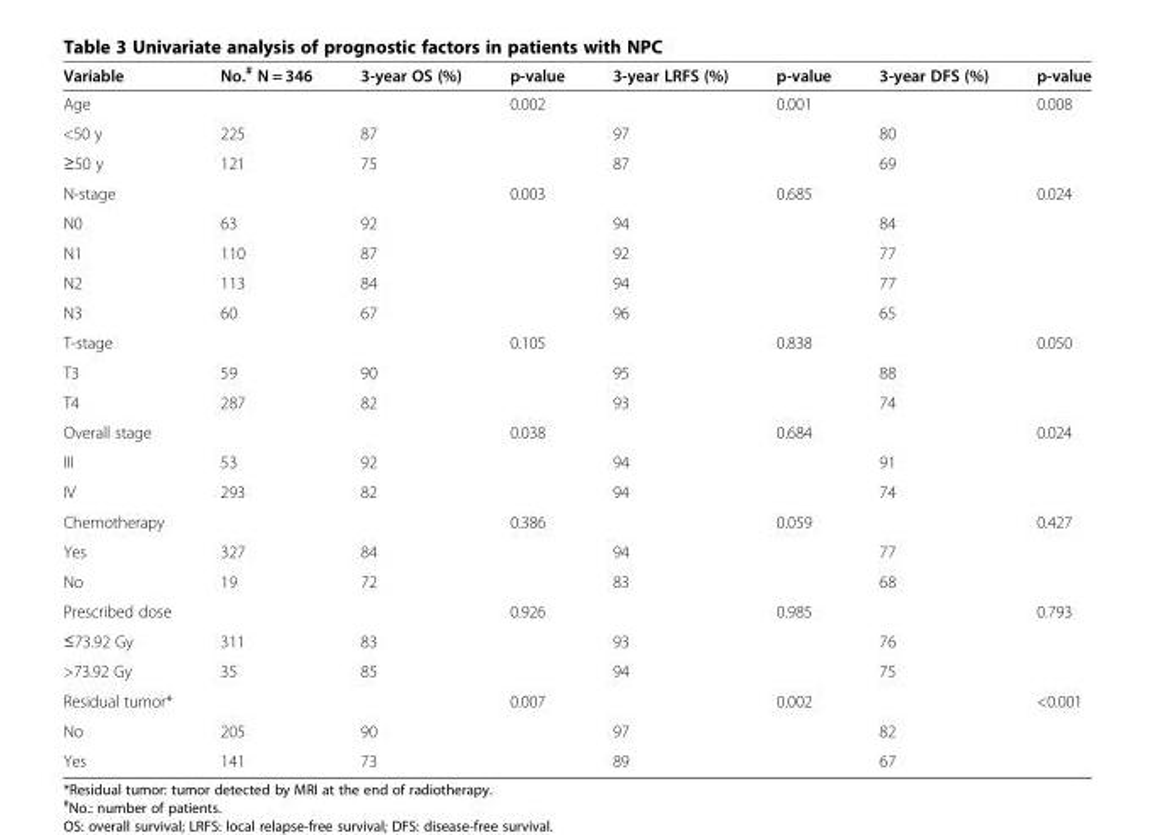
<table><thead><tr><td>Variable</td><td>No.<sup>#</sup> N = 346</td><td>3-year OS (%)</td><td>p-value</td><td>3-year LRFS (%)</td><td>p-value</td><td>3-year DFS (%)</td><td>p-value</td></tr></thead><tbody><tr><td>Age</td><td></td><td></td><td>0.002</td><td></td><td>0.001</td><td></td><td>0.008</td></tr><tr><td>&lt;50 y</td><td>225</td><td>87</td><td></td><td>97</td><td></td><td>80</td><td></td></tr><tr><td>≥50 y</td><td>121</td><td>75</td><td></td><td>87</td><td></td><td>69</td><td></td></tr><tr><td>N-stage</td><td></td><td></td><td>0.003</td><td></td><td>0.685</td><td></td><td>0.024</td></tr><tr><td>N0</td><td>63</td><td>92</td><td></td><td>94</td><td></td><td>84</td><td></td></tr><tr><td>N1</td><td>110</td><td>87</td><td></td><td>92</td><td></td><td>77</td><td></td></tr><tr><td>N2</td><td>113</td><td>84</td><td></td><td>94</td><td></td><td>77</td><td></td></tr><tr><td>N3</td><td>60</td><td>67</td><td></td><td>96</td><td></td><td>65</td><td></td></tr><tr><td>T-stage</td><td></td><td></td><td>0.105</td><td></td><td>0.838</td><td></td><td>0.050</td></tr><tr><td>T3</td><td>59</td><td>90</td><td></td><td>95</td><td></td><td>88</td><td></td></tr><tr><td>T4</td><td>287</td><td>82</td><td></td><td>93</td><td></td><td>74</td><td></td></tr><tr><td>Overall stage</td><td></td><td></td><td>0.038</td><td></td><td>0.684</td><td></td><td>0.024</td></tr><tr><td>III</td><td>53</td><td>92</td><td></td><td>94</td><td></td><td>91</td><td></td></tr><tr><td>IV</td><td>293</td><td>82</td><td></td><td>94</td><td></td><td>74</td><td></td></tr><tr><td>Chemotherapy</td><td></td><td></td><td>0.386</td><td></td><td>0.059</td><td></td><td>0.427</td></tr><tr><td>Yes</td><td>327</td><td>84</td><td></td><td>94</td><td></td><td>77</td><td></td></tr><tr><td>No</td><td>19</td><td>72</td><td></td><td>83</td><td></td><td>68</td><td></td></tr><tr><td>Prescribed dose</td><td></td><td></td><td>0.926</td><td></td><td>0.985</td><td></td><td>0.793</td></tr><tr><td>≤73.92 Gy</td><td>311</td><td>83</td><td></td><td>93</td><td></td><td>76</td><td></td></tr><tr><td>&gt;73.92 Gy</td><td>35</td><td>85</td><td></td><td>94</td><td></td><td>75</td><td></td></tr><tr><td>Residual tumor*</td><td></td><td></td><td>0.007</td><td></td><td>0.002</td><td></td><td>&lt;0.001</td></tr><tr><td>No</td><td>205</td><td>90</td><td></td><td>97</td><td></td><td>82</td><td></td></tr><tr><td>Yes</td><td>141</td><td>73</td><td></td><td>89</td><td></td><td>67</td><td></td></tr></tbody></table>